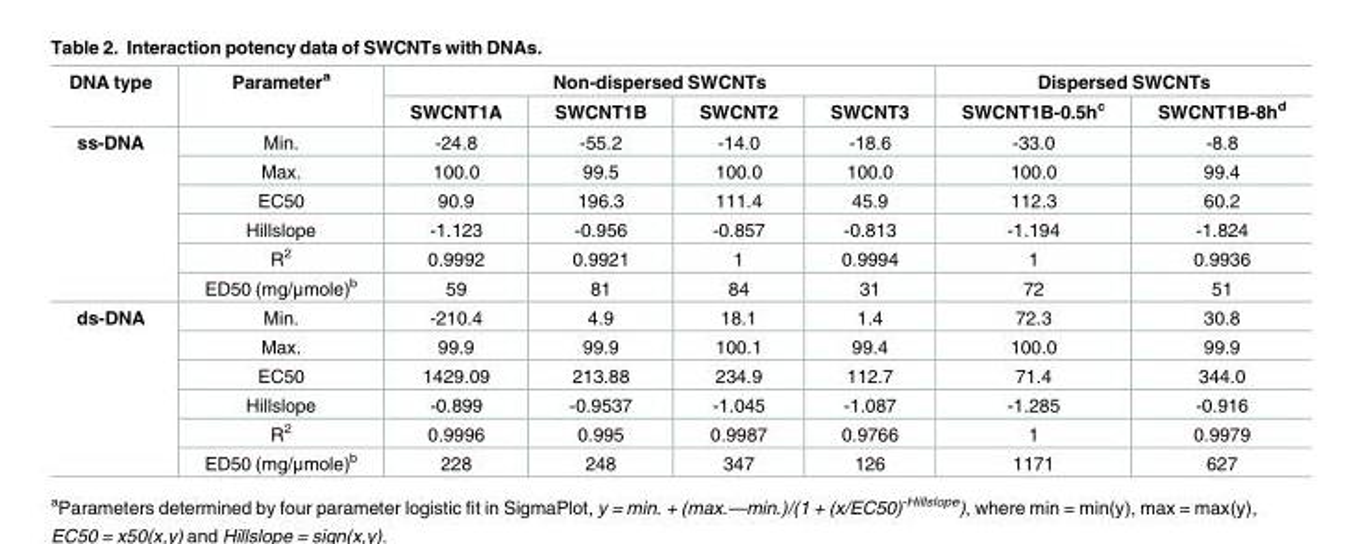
<table><thead><tr><td rowspan="2">DNA type</td><td rowspan="2">Parameter<sup>a</sup></td><td colspan="4">Non-dispersed SWCNTs</td><td colspan="2">Dispersed SWCNTs</td></tr><tr><td>SWCNT1A</td><td>SWCNT1B</td><td>SWCNT2</td><td>SWCNT3</td><td>SWCNT1B-0.5h<sup>c</sup></td><td>SWCNT1B-8h<sup>d</sup></td></tr></thead><tbody><tr><td rowspan="6">ss-DNA</td><td>Min.</td><td>-24.8</td><td>-55.2</td><td>-14.0</td><td>-18.6</td><td>-33.0</td><td>-8.8</td></tr><tr><td>Max.</td><td>100.0</td><td>99.5</td><td>100.0</td><td>100.0</td><td>100.0</td><td>99.4</td></tr><tr><td>EC50</td><td>90.9</td><td>196.3</td><td>111.4</td><td>45.9</td><td>112.3</td><td>60.2</td></tr><tr><td>Hillslope</td><td>-1.123</td><td>-0.956</td><td>-0.857</td><td>-0.813</td><td>-1.194</td><td>-1.824</td></tr><tr><td>R<sup>2</sup></td><td>0.9992</td><td>0.9921</td><td>1</td><td>0.9994</td><td>1</td><td>0.9936</td></tr><tr><td>ED50 (mg/μmole)<sup>b</sup></td><td>59</td><td>81</td><td>84</td><td>31</td><td>72</td><td>51</td></tr><tr><td rowspan="6">ds-DNA</td><td>Min.</td><td>-210.4</td><td>4.9</td><td>18.1</td><td>1.4</td><td>72.3</td><td>30.8</td></tr><tr><td>Max.</td><td>99.9</td><td>99.9</td><td>100.1</td><td>99.4</td><td>100.0</td><td>99.9</td></tr><tr><td>EC50</td><td>1429.09</td><td>213.88</td><td>234.9</td><td>112.7</td><td>71.4</td><td>344.0</td></tr><tr><td>Hillslope</td><td>-0.899</td><td>-0.9537</td><td>-1.045</td><td>-1.087</td><td>-1.285</td><td>-0.916</td></tr><tr><td>R<sup>2</sup></td><td>0.9996</td><td>0.995</td><td>0.9987</td><td>0.9766</td><td>1</td><td>0.9979</td></tr><tr><td>ED50 (mg/μmole)<sup>b</sup></td><td>228</td><td>248</td><td>347</td><td>126</td><td>1171</td><td>627</td></tr></tbody></table>